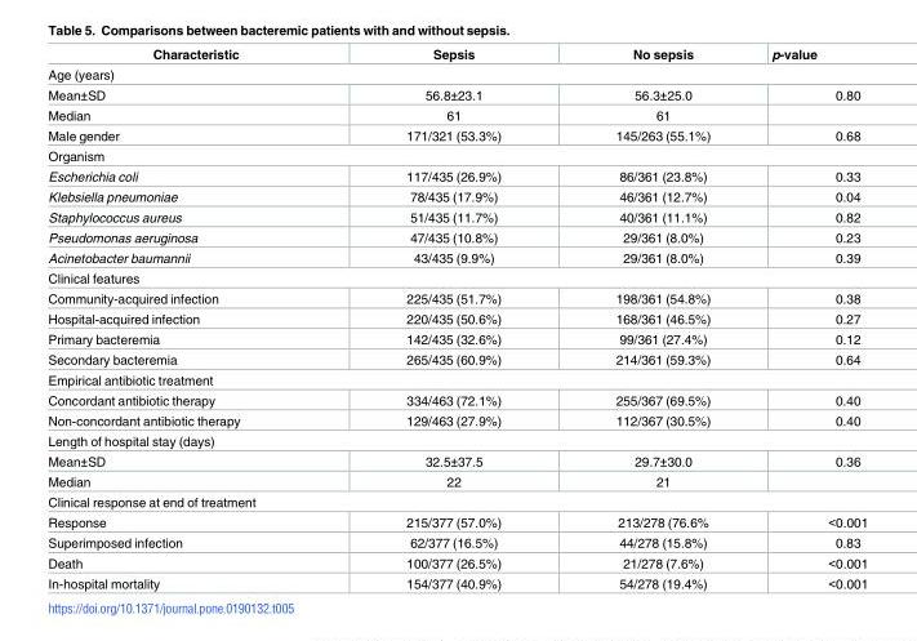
<table><thead><tr><td>Characteristic</td><td>Sepsis</td><td>No sepsis</td><td>p-value</td></tr></thead><tbody><tr><td colspan="4">Age (years)</td></tr><tr><td>Mean±SD</td><td>56.8±23.1</td><td>56.3±25.0</td><td>0.80</td></tr><tr><td>Median</td><td>61</td><td>61</td><td></td></tr><tr><td>Male gender</td><td>171/321 (53.3%)</td><td>145/263 (55.1%)</td><td>0.68</td></tr><tr><td colspan="4">Organism</td></tr><tr><td>Escherichia coli</td><td>117/435 (26.9%)</td><td>86/361 (23.8%)</td><td>0.33</td></tr><tr><td>Klebsiella pneumoniae</td><td>78/435 (17.9%)</td><td>46/361 (12.7%)</td><td>0.04</td></tr><tr><td>Staphylococcus aureus</td><td>51/435 (11.7%)</td><td>40/361 (11.1%)</td><td>0.82</td></tr><tr><td>Pseudomonas aeruginosa</td><td>47/435 (10.8%)</td><td>29/361 (8.0%)</td><td>0.23</td></tr><tr><td>Acinetobacter baumannii</td><td>43/435 (9.9%)</td><td>29/361 (8.0%)</td><td>0.39</td></tr><tr><td colspan="4">Clinical features</td></tr><tr><td>Community-acquired infection</td><td>225/435 (51.7%)</td><td>198/361 (54.8%)</td><td>0.38</td></tr><tr><td>Hospital-acquired infection</td><td>220/435 (50.6%)</td><td>168/361 (46.5%)</td><td>0.27</td></tr><tr><td>Primary bacteremia</td><td>142/435 (32.6%)</td><td>99/361 (27.4%)</td><td>0.12</td></tr><tr><td>Secondary bacteremia</td><td>265/435 (60.9%)</td><td>214/361 (59.3%)</td><td>0.64</td></tr><tr><td colspan="4">Empirical antibiotic treatment</td></tr><tr><td>Concordant antibiotic therapy</td><td>334/463 (72.1%)</td><td>255/367 (69.5%)</td><td>0.40</td></tr><tr><td>Non-concordant antibiotic therapy</td><td>129/463 (27.9%)</td><td>112/367 (30.5%)</td><td>0.40</td></tr><tr><td colspan="4">Length of hospital stay (days)</td></tr><tr><td>Mean±SD</td><td>32.5±37.5</td><td>29.7±30.0</td><td>0.36</td></tr><tr><td>Median</td><td>22</td><td>21</td><td></td></tr><tr><td colspan="4">Clinical response at end of treatment</td></tr><tr><td>Response</td><td>215/377 (57.0%)</td><td>213/278 (76.6%</td><td>&lt;0.001</td></tr><tr><td>Superimposed infection</td><td>62/377 (16.5%)</td><td>44/278 (15.8%)</td><td>0.83</td></tr><tr><td>Death</td><td>100/377 (26.5%)</td><td>21/278 (7.6%)</td><td>&lt;0.001</td></tr><tr><td>In-hospital mortality</td><td>154/377 (40.9%)</td><td>54/278 (19.4%)</td><td>&lt;0.001</td></tr></tbody></table>